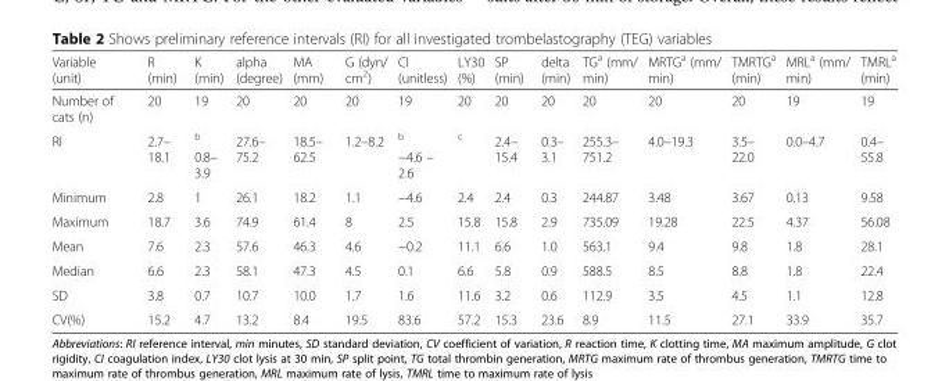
<table><thead><tr><td>Variable (unit)</td><td>R (min)</td><td>K (min)</td><td>alpha (degree)</td><td>MA (mm)</td><td>G (dyn/ cm<sup>2</sup>)</td><td>CI (unitless)</td><td>LY30 (%)</td><td>SP (min)</td><td>delta (min)</td><td>TG<sup>a</sup> (mm/ min)</td><td>MRTG<sup>a</sup> (mm/ min)</td><td>TMRTG<sup>a</sup> (min)</td><td>MRL<sup>a</sup> (mm/ min)</td><td>TMRL<sup>a</sup> (min)</td></tr></thead><tbody><tr><td>Number of cats (n)</td><td>20</td><td>19</td><td>20</td><td>20</td><td>20</td><td>19</td><td>20</td><td>20</td><td>20</td><td>20</td><td>20</td><td>20</td><td>19</td><td>19</td></tr><tr><td>RI</td><td>2.7– 18.1</td><td><sup>b</sup> 0.8– 3.9</td><td>27.6– 75.2</td><td>18.5– 62.5</td><td>1.2–8.2</td><td><sup>b</sup> −4.6 – 2.6</td><td><sup>c</sup></td><td>2.4– 15.4</td><td>0.3– 3.1</td><td>255.3– 751.2</td><td>4.0–19.3</td><td>3.5– 22.0</td><td>0.0–4.7</td><td>0.4– 55.8</td></tr><tr><td>Minimum</td><td>2.8</td><td>1</td><td>26.1</td><td>18.2</td><td>1.1</td><td>−4.6</td><td>2.4</td><td>2.4</td><td>0.3</td><td>244.87</td><td>3.48</td><td>3.67</td><td>0.13</td><td>9.58</td></tr><tr><td>Maximum</td><td>18.7</td><td>3.6</td><td>74.9</td><td>61.4</td><td>8</td><td>2.5</td><td>15.8</td><td>15.8</td><td>2.9</td><td>735.09</td><td>19.28</td><td>22.5</td><td>4.37</td><td>56.08</td></tr><tr><td>Mean</td><td>7.6</td><td>2.3</td><td>57.6</td><td>46.3</td><td>4.6</td><td>−0.2</td><td>11.1</td><td>6.6</td><td>1.0</td><td>563.1</td><td>9.4</td><td>9.8</td><td>1.8</td><td>28.1</td></tr><tr><td>Median</td><td>6.6</td><td>2.3</td><td>58.1</td><td>47.3</td><td>4.5</td><td>0.1</td><td>6.6</td><td>5.8</td><td>0.9</td><td>588.5</td><td>8.5</td><td>8.8</td><td>1.8</td><td>22.4</td></tr><tr><td>SD</td><td>3.8</td><td>0.7</td><td>10.7</td><td>10.0</td><td>1.7</td><td>1.6</td><td>11.6</td><td>3.2</td><td>0.6</td><td>112.9</td><td>3.5</td><td>4.5</td><td>1.1</td><td>12.8</td></tr><tr><td>CV(%)</td><td>15.2</td><td>4.7</td><td>13.2</td><td>8.4</td><td>19.5</td><td>83.6</td><td>57.2</td><td>15.3</td><td>23.6</td><td>8.9</td><td>11.5</td><td>27.1</td><td>33.9</td><td>35.7</td></tr></tbody></table>